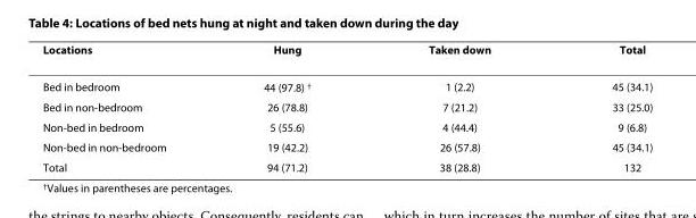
<table><thead><tr><td>Locations</td><td>Hung</td><td>Taken down</td><td>Total</td></tr></thead><tbody><tr><td>Bed in bedroom</td><td>44 (97.8) <sup>†</sup></td><td>1 (2.2)</td><td>45 (34.1)</td></tr><tr><td>Bed in non-bedroom</td><td>26 (78.8)</td><td>7 (21.2)</td><td>33 (25.0)</td></tr><tr><td>Non-bed in bedroom</td><td>5 (55.6)</td><td>4 (44.4)</td><td>9 (6.8)</td></tr><tr><td>Non-bed in non-bedroom</td><td>19 (42.2)</td><td>26 (57.8)</td><td>45 (34.1)</td></tr><tr><td>Total</td><td>94 (71.2)</td><td>38 (28.8)</td><td>132</td></tr></tbody></table>